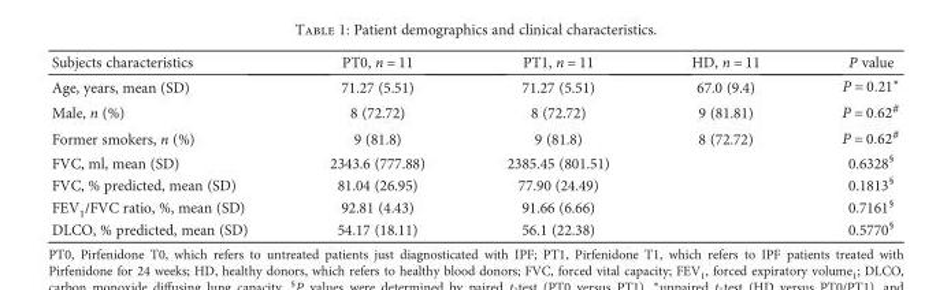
<table><thead><tr><td>Subjects characteristics</td><td>PT0, n = 11</td><td>PT1, n = 11</td><td>HD, n = 11</td><td>P value</td></tr></thead><tbody><tr><td>Age, years, mean (SD)</td><td>71.27 (5.51)</td><td>71.27 (5.51)</td><td>67.0 (9.4)</td><td>P = 0 21∗</td></tr><tr><td>Male, n (%)</td><td>8 (72.72)</td><td>8 (72.72)</td><td>9 (81.81)</td><td>P = 0 62#</td></tr><tr><td>Former smokers, n (%)</td><td>9 (81.8)</td><td>9 (81.8)</td><td>8 (72.72)</td><td>P = 0 62#</td></tr><tr><td>FVC, ml, mean (SD)</td><td>2343.6 (777.88)</td><td>2385.45 (801.51)</td><td></td><td>0.6328<sup>§</sup></td></tr><tr><td>FVC, % predicted, mean (SD)</td><td>81.04 (26.95)</td><td>77.90 (24.49)</td><td></td><td>0.1813<sup>§</sup></td></tr><tr><td>FEV<sub>1</sub>/FVC ratio, %, mean (SD)</td><td>92.81 (4.43)</td><td>91.66 (6.66)</td><td></td><td>0.7161<sup>§</sup></td></tr><tr><td>DLCO, % predicted, mean (SD)</td><td>54.17 (18.11)</td><td>56.1 (22.38)</td><td></td><td>0.5770<sup>§</sup></td></tr></tbody></table>